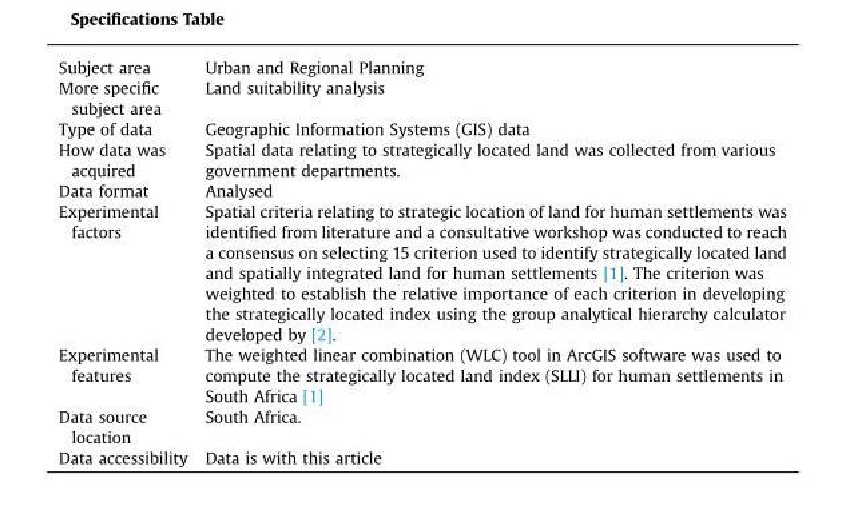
<table><tbody><tr><td>Subject area</td><td>Urban and Regional Planning</td></tr><tr><td>More specific subject area</td><td>Land suitability analysis</td></tr><tr><td>Type of data</td><td>Geographic Information Systems (GIS) data</td></tr><tr><td>How data was acquired</td><td>Spatial data relating to strategically located land was collected from various government departments.</td></tr><tr><td>Data format</td><td>Analysed</td></tr><tr><td>Experimental factors</td><td>Spatial criteria relating to strategic location of land for human settlements was identified from literature and a consultative workshop was conducted to reach a consensus on selecting 15 criterion used to identify strategically located land and spatially integrated land for human settlements [1]. The criterion was weighted to establish the relative importance of each criterion in developing the strategically located index using the group analytical hierarchy calculator developed by [2].</td></tr><tr><td>Experimental features</td><td>The weighted linear combination (WLC) tool in ArcGIS software was used to compute the strategically located land index (SLLI) for human settlements in South Africa [1]</td></tr><tr><td>Data source location</td><td>South Africa.</td></tr><tr><td>Data accessibility</td><td>Data is with this article</td></tr></tbody></table>